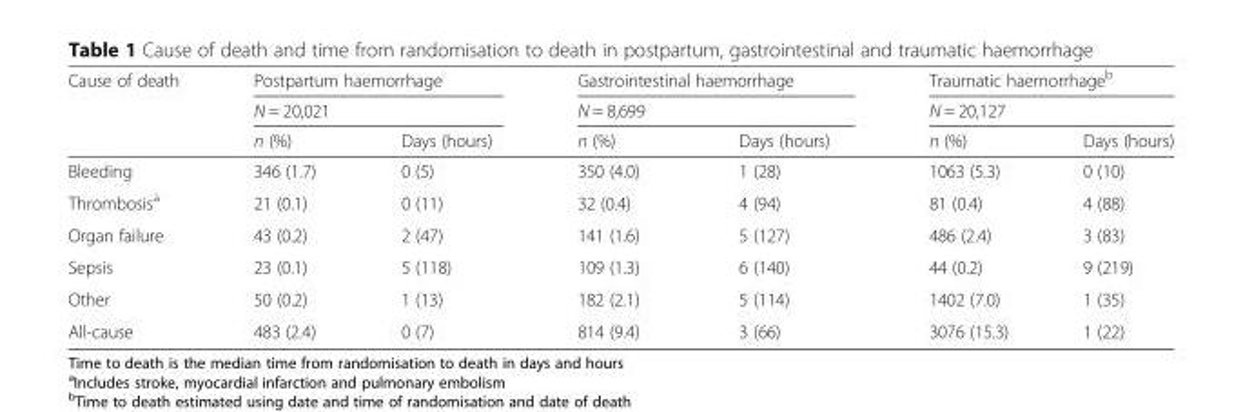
<table><thead><tr><td rowspan="3">Cause of death</td><td rowspan="2" colspan="2">Postpartum haemorrhage N = 20,021</td><td rowspan="2" colspan="2">Gastrointestinal haemorrhage N = 8,699</td><td rowspan="2" colspan="2">Traumatic haemorrhage<sup>b</sup> N = 20,127</td></tr><tr></tr><tr><td>n (%)</td><td>Days (hours)</td><td>n (%)</td><td>Days (hours)</td><td>n (%)</td><td>Days (hours)</td></tr></thead><tbody><tr><td>Bleeding</td><td>346 (1.7)</td><td>0 (5)</td><td>350 (4.0)</td><td>1 (28)</td><td>1063 (5.3)</td><td>0 (10)</td></tr><tr><td>Thrombosis<sup>a</sup></td><td>21 (0.1)</td><td>0 (11)</td><td>32 (0.4)</td><td>4 (94)</td><td>81 (0.4)</td><td>4 (88)</td></tr><tr><td>Organ failure</td><td>43 (0.2)</td><td>2 (47)</td><td>141 (1.6)</td><td>5 (127)</td><td>486 (2.4)</td><td>3 (83)</td></tr><tr><td>Sepsis</td><td>23 (0.1)</td><td>5 (118)</td><td>109 (1.3)</td><td>6 (140)</td><td>44 (0.2)</td><td>9 (219)</td></tr><tr><td>Other</td><td>50 (0.2)</td><td>1 (13)</td><td>182 (2.1)</td><td>5 (114)</td><td>1402 (7.0)</td><td>1 (35)</td></tr><tr><td>All-cause</td><td>483 (2.4)</td><td>0 (7)</td><td>814 (9.4)</td><td>3 (66)</td><td>3076 (15.3)</td><td>1 (22)</td></tr></tbody></table>